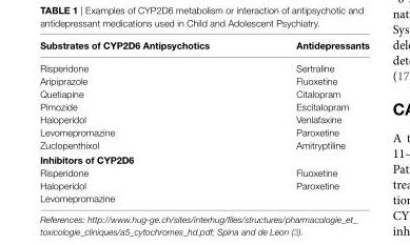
<table><thead><tr><td>substrates of CYp2D6 antipsychotics</td><td>antidepressants</td></tr></thead><tbody><tr><td>Risperidone</td><td>Sertraline</td></tr><tr><td>Aripiprazole</td><td>Fluoxetine</td></tr><tr><td>Quetiapine</td><td>Citalopram</td></tr><tr><td>Pimozide</td><td>Escitalopram</td></tr><tr><td>Haloperidol</td><td>Venlafaxine</td></tr><tr><td>Levomepromazine</td><td>Paroxetine</td></tr><tr><td>Zuclopenthixol</td><td>Amitryptiline</td></tr><tr><td colspan="2">Inhibitors of CYp2D6</td></tr><tr><td>Risperidone</td><td>Fluoxetine</td></tr><tr><td>Haloperidol</td><td rowspan="2">Paroxetine</td></tr><tr><td>Levomepromazine</td></tr></tbody></table>